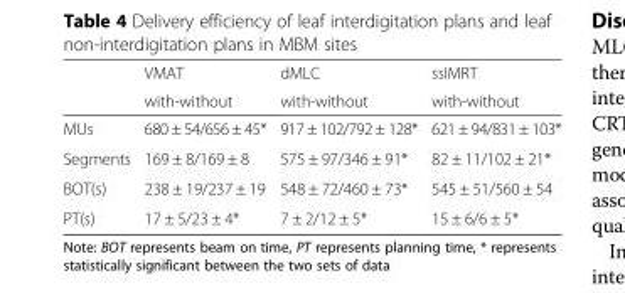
<table><thead><tr><td rowspan="2"></td><td rowspan="2">VMAT with-without</td><td rowspan="2">dMLC with-without</td><td rowspan="2">ssIMRT with-without</td></tr><tr></tr></thead><tbody><tr><td>MUs</td><td>680 ± 54/656 ± 45*</td><td>917 ± 102/792 ± 128*</td><td>621 ± 94/831 ± 103*</td></tr><tr><td>Segments</td><td>169 ± 8/169 ± 8</td><td>575 ± 97/346 ± 91*</td><td>82 ± 11/102 ± 21*</td></tr><tr><td>BOT(s)</td><td>238 ± 19/237 ± 19</td><td>548 ± 72/460 ± 73*</td><td>545 ± 51/560 ± 54</td></tr><tr><td>PT(s)</td><td>17 ± 5/23 ± 4*</td><td>7 ± 2/12 ± 5*</td><td>15 ± 6/6 ± 5*</td></tr></tbody></table>